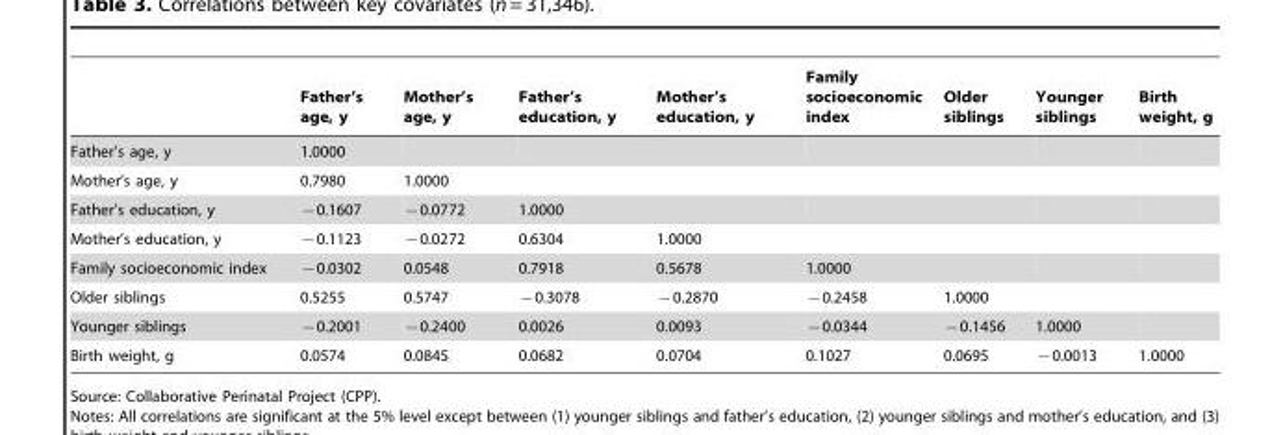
<table><thead><tr><td></td><td>Father’s age, y</td><td>Mother’s age, y</td><td>Father’s education, y</td><td>Mother’s education, y</td><td>Family socioeconomic index</td><td>Older siblings</td><td>Younger siblings</td><td>Birth weight, g</td></tr></thead><tbody><tr><td>Father’s age, y</td><td>1.0000</td><td></td><td></td><td></td><td></td><td></td><td></td><td></td></tr><tr><td>Mother’s age, y</td><td>0.7980</td><td>1.0000</td><td></td><td></td><td></td><td></td><td></td><td></td></tr><tr><td>Father’s education, y</td><td>{0.1607</td><td>{0.0772</td><td>1.0000</td><td></td><td></td><td></td><td></td><td></td></tr><tr><td>Mother’s education, y</td><td>{0.1123</td><td>{0.0272</td><td>0.6304</td><td>1.0000</td><td></td><td></td><td></td><td></td></tr><tr><td>Family socioeconomic index</td><td>{0.0302</td><td>0.0548</td><td>0.7918</td><td>0.5678</td><td>1.0000</td><td></td><td></td><td></td></tr><tr><td>Older siblings</td><td>0.5255</td><td>0.5747</td><td>{0.3078</td><td>{0.2870</td><td>{0.2458</td><td>1.0000</td><td></td><td></td></tr><tr><td>Younger siblings</td><td>{0.2001</td><td>{0.2400</td><td>0.0026</td><td>0.0093</td><td>{0.0344</td><td>{0.1456</td><td>1.0000</td><td></td></tr><tr><td>Birth weight, g</td><td>0.0574</td><td>0.0845</td><td>0.0682</td><td>0.0704</td><td>0.1027</td><td>0.0695</td><td>{0.0013</td><td>1.0000</td></tr></tbody></table>